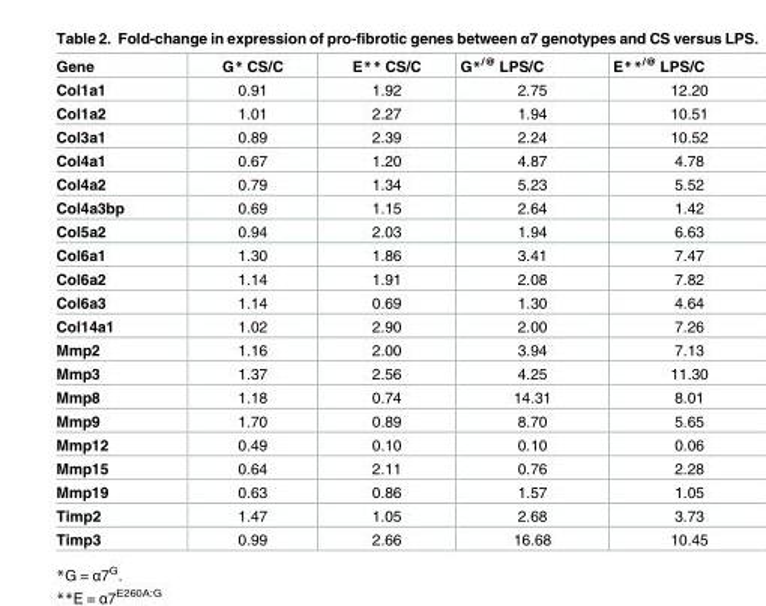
<table><thead><tr><td>Gene</td><td>G* CS/C</td><td>E** CS/C</td><td>G*<sup>/@</sup> LPS/C</td><td>E**<sup>/@</sup> LPS/C</td></tr></thead><tbody><tr><td>Col1a1</td><td>0.91</td><td>1.92</td><td>2.75</td><td>12.20</td></tr><tr><td>Col1a2</td><td>1.01</td><td>2.27</td><td>1.94</td><td>10.51</td></tr><tr><td>Col3a1</td><td>0.89</td><td>2.39</td><td>2.24</td><td>10.52</td></tr><tr><td>Col4a1</td><td>0.67</td><td>1.20</td><td>4.87</td><td>4.78</td></tr><tr><td>Col4a2</td><td>0.79</td><td>1.34</td><td>5.23</td><td>5.52</td></tr><tr><td>Col4a3bp</td><td>0.69</td><td>1.15</td><td>2.64</td><td>1.42</td></tr><tr><td>Col5a2</td><td>0.94</td><td>2.03</td><td>1.94</td><td>6.63</td></tr><tr><td>Col6a1</td><td>1.30</td><td>1.86</td><td>3.41</td><td>7.47</td></tr><tr><td>Col6a2</td><td>1.14</td><td>1.91</td><td>2.08</td><td>7.82</td></tr><tr><td>Col6a3</td><td>1.14</td><td>0.69</td><td>1.30</td><td>4.64</td></tr><tr><td>Col14a1</td><td>1.02</td><td>2.90</td><td>2.00</td><td>7.26</td></tr><tr><td>Mmp2</td><td>1.16</td><td>2.00</td><td>3.94</td><td>7.13</td></tr><tr><td>Mmp3</td><td>1.37</td><td>2.56</td><td>4.25</td><td>11.30</td></tr><tr><td>Mmp8</td><td>1.18</td><td>0.74</td><td>14.31</td><td>8.01</td></tr><tr><td>Mmp9</td><td>1.70</td><td>0.89</td><td>8.70</td><td>5.65</td></tr><tr><td>Mmp12</td><td>0.49</td><td>0.10</td><td>0.10</td><td>0.06</td></tr><tr><td>Mmp15</td><td>0.64</td><td>2.11</td><td>0.76</td><td>2.28</td></tr><tr><td>Mmp19</td><td>0.63</td><td>0.86</td><td>1.57</td><td>1.05</td></tr><tr><td>Timp2</td><td>1.47</td><td>1.05</td><td>2.68</td><td>3.73</td></tr><tr><td>Timp3</td><td>0.99</td><td>2.66</td><td>16.68</td><td>10.45</td></tr></tbody></table>